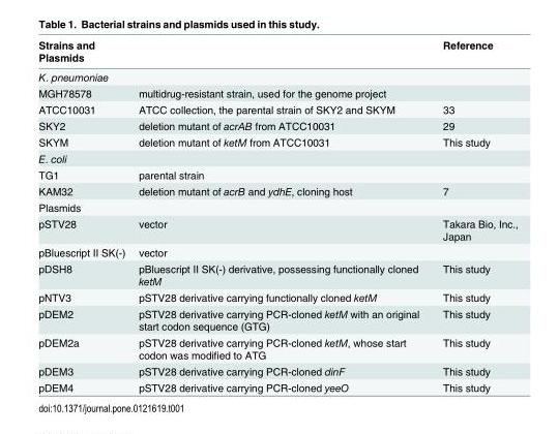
<table><thead><tr><td>Strains and Plasmids</td><td></td><td>Reference</td></tr></thead><tbody><tr><td colspan="3">K. pneumoniae</td></tr><tr><td>MGH78578</td><td>multidrug-resistant strain, used for the genome project</td><td></td></tr><tr><td>ATCC10031</td><td>ATCC collection, the parental strain of SKY2 and SKYM</td><td>33</td></tr><tr><td>SKY2</td><td>deletion mutant of acrAB from ATCC10031</td><td>29</td></tr><tr><td>SKYM</td><td>deletion mutant of ketM from ATCC10031</td><td>This study</td></tr><tr><td colspan="3">E. coli</td></tr><tr><td>TG1</td><td>parental strain</td><td></td></tr><tr><td>KAM32</td><td>deletion mutant of acrB and ydhE, cloning host</td><td>7</td></tr><tr><td colspan="3">Plasmids</td></tr><tr><td>pSTV28</td><td>vector</td><td>Takara Bio, Inc., Japan</td></tr><tr><td>pBluescript II SK(-)</td><td>vector</td><td></td></tr><tr><td>pDSH8</td><td>pBluescript II SK(-) derivative, possessing functionally cloned ketM</td><td>This study</td></tr><tr><td>pNTV3</td><td>pSTV28 derivative carrying functionally cloned ketM</td><td>This study</td></tr><tr><td>pDEM2</td><td>pSTV28 derivative carrying PCR-cloned ketM with an original start codon sequence (GTG)</td><td>This study</td></tr><tr><td>pDEM2a</td><td>pSTV28 derivative carrying PCR-cloned ketM, whose start codon was modified to ATG</td><td>This study</td></tr><tr><td>pDEM3</td><td>pSTV28 derivative carrying PCR-cloned dinF</td><td>This study</td></tr><tr><td>pDEM4</td><td>pSTV28 derivative carrying PCR-cloned yeeO</td><td>This study</td></tr></tbody></table>